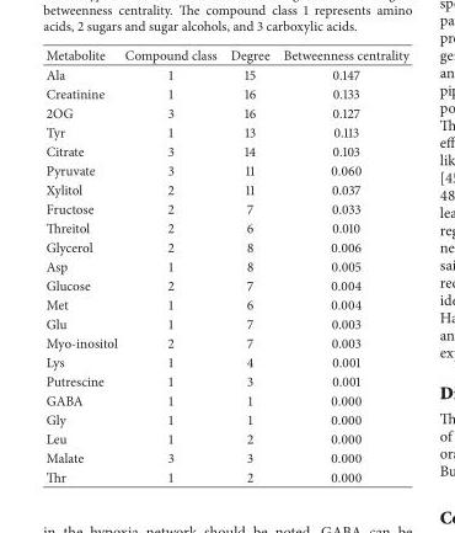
<table><thead><tr><td>Metabolite</td><td>Compound class</td><td>Degree</td><td>Betweenness centrality</td></tr></thead><tbody><tr><td>Ala</td><td>1</td><td>15</td><td>0.147</td></tr><tr><td>Creatinine</td><td>1</td><td>16</td><td>0.133</td></tr><tr><td>2OG</td><td>3</td><td>16</td><td>0.127</td></tr><tr><td>Tyr</td><td>1</td><td>13</td><td>0.113</td></tr><tr><td>Citrate</td><td>3</td><td>14</td><td>0.103</td></tr><tr><td>Pyruvate</td><td>3</td><td>11</td><td>0.060</td></tr><tr><td>Xylitol</td><td>2</td><td>11</td><td>0.037</td></tr><tr><td>Fructose</td><td>2</td><td>7</td><td>0.033</td></tr><tr><td>Threitol</td><td>2</td><td>6</td><td>0.010</td></tr><tr><td>Glycerol</td><td>2</td><td>8</td><td>0.006</td></tr><tr><td>Asp</td><td>1</td><td>8</td><td>0.005</td></tr><tr><td>Glucose</td><td>2</td><td>7</td><td>0.004</td></tr><tr><td>Met</td><td>1</td><td>6</td><td>0.004</td></tr><tr><td>Glu</td><td>1</td><td>7</td><td>0.003</td></tr><tr><td>Myo-inositol</td><td>2</td><td>7</td><td>0.003</td></tr><tr><td>Lys</td><td>1</td><td>4</td><td>0.001</td></tr><tr><td>Putrescine</td><td>1</td><td>3</td><td>0.001</td></tr><tr><td>GABA</td><td>1</td><td>1</td><td>0.000</td></tr><tr><td>Gly</td><td>1</td><td>1</td><td>0.000</td></tr><tr><td>Leu</td><td>1</td><td>2</td><td>0.000</td></tr><tr><td>Malate</td><td>3</td><td>3</td><td>0.000</td></tr><tr><td>Thr</td><td>1</td><td>2</td><td>0.000</td></tr></tbody></table>